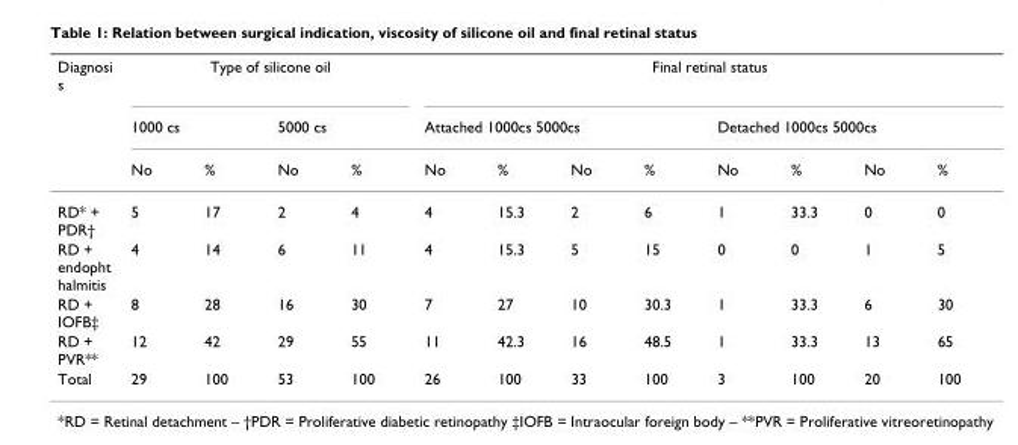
<table><thead><tr><td rowspan="3">Diagnosi s</td><td colspan="4">Type of silicone oil</td><td colspan="8">Final retinal status</td></tr><tr><td colspan="2">1000 cs</td><td colspan="2">5000 cs</td><td colspan="4">Attached 1000cs 5000cs</td><td colspan="4">Detached 1000cs 5000cs</td></tr><tr><td>No</td><td>%</td><td>No</td><td>%</td><td>No</td><td>%</td><td>No</td><td>%</td><td>No</td><td>%</td><td>No</td><td>%</td></tr></thead><tbody><tr><td>RD* + PDR†</td><td>5</td><td>17</td><td>2</td><td>4</td><td>4</td><td>15.3</td><td>2</td><td>6</td><td>1</td><td>33.3</td><td>0</td><td>0</td></tr><tr><td>RD + endopht halmitis</td><td>4</td><td>14</td><td>6</td><td>11</td><td>4</td><td>15.3</td><td>5</td><td>15</td><td>0</td><td>0</td><td>1</td><td>5</td></tr><tr><td>RD + IOFB‡</td><td>8</td><td>28</td><td>16</td><td>30</td><td>7</td><td>27</td><td>10</td><td>30.3</td><td>1</td><td>33.3</td><td>6</td><td>30</td></tr><tr><td>RD + PVR**</td><td>12</td><td>42</td><td>29</td><td>55</td><td>11</td><td>42.3</td><td>16</td><td>48.5</td><td>1</td><td>33.3</td><td>13</td><td>65</td></tr><tr><td>Total</td><td>29</td><td>100</td><td>53</td><td>100</td><td>26</td><td>100</td><td>33</td><td>100</td><td>3</td><td>100</td><td>20</td><td>100</td></tr></tbody></table>